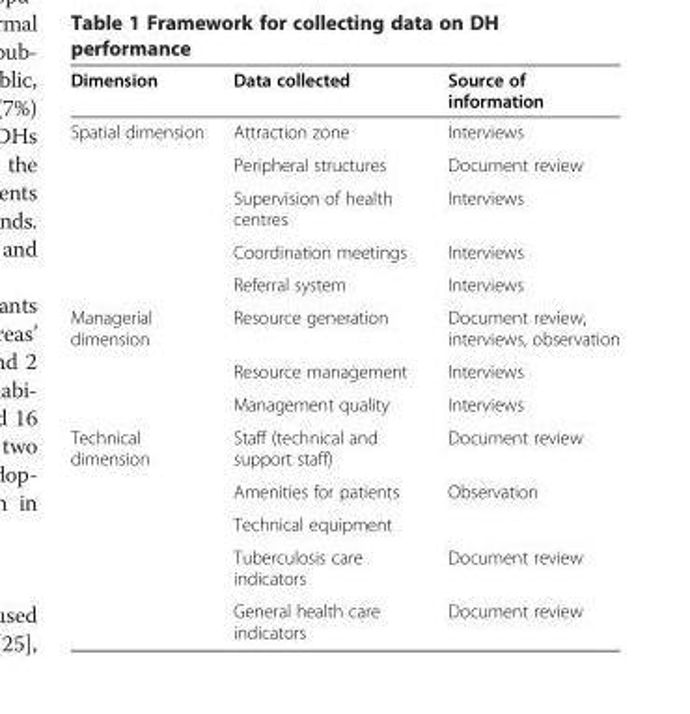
<table><thead><tr><td>Dimension</td><td>Data collected</td><td>Source of information</td></tr></thead><tbody><tr><td rowspan="5">Spatial dimension</td><td>Attraction zone</td><td>Interviews</td></tr><tr><td>Peripheral structures</td><td>Document review</td></tr><tr><td>Supervision of health centres</td><td>Interviews</td></tr><tr><td>Coordination meetings</td><td>Interviews</td></tr><tr><td>Referral system</td><td>Interviews</td></tr><tr><td rowspan="3">Managerial dimension</td><td>Resource generation</td><td>Document review, interviews, observation</td></tr><tr><td>Resource management</td><td>Interviews</td></tr><tr><td>Management quality</td><td>Interviews</td></tr><tr><td rowspan="5">Technical dimension</td><td>Staff (technical and support staff)</td><td>Document review</td></tr><tr><td>Amenities for patients</td><td>Observation</td></tr><tr><td>Technical equipment</td><td></td></tr><tr><td>Tuberculosis care indicators</td><td>Document review</td></tr><tr><td>General health care indicators</td><td>Document review</td></tr></tbody></table>